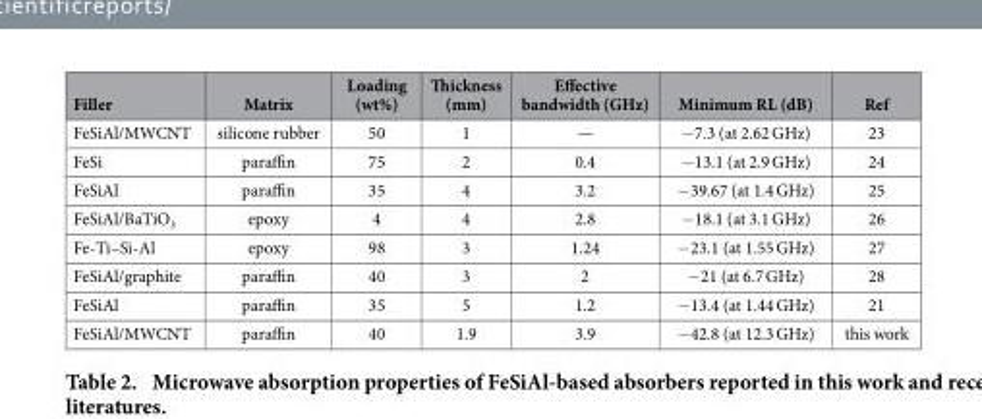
<table><thead><tr><td>Filler</td><td>Matrix</td><td>Loading (wt%)</td><td>Thickness (mm)</td><td>Effective bandwidth (GHz)</td><td>Minimum RL (dB)</td><td>Ref</td></tr></thead><tbody><tr><td>FeSiAl/MWCNT</td><td>silicone rubber</td><td>50</td><td>1</td><td>—</td><td>− 7.3 (at 2.62 GHz)</td><td>23</td></tr><tr><td>FeSi</td><td>paraffin</td><td>75</td><td>2</td><td>0.4</td><td>− 13.1 (at 2.9 GHz)</td><td>24</td></tr><tr><td>FeSiAl</td><td>paraffin</td><td>35</td><td>4</td><td>3.2</td><td>− 39.67 (at 1.4 GHz)</td><td>25</td></tr><tr><td>FeSiAl/BaTiO<sub>3</sub></td><td>epoxy</td><td>4</td><td>4</td><td>2.8</td><td>− 18.1 (at 3.1 GHz)</td><td>26</td></tr><tr><td>Fe-Ti–Si-Al</td><td>epoxy</td><td>98</td><td>3</td><td>1.24</td><td>− 23.1 (at 1.55 GHz)</td><td>27</td></tr><tr><td>FeSiAl/graphite</td><td>paraffin</td><td>40</td><td>3</td><td>2</td><td>− 21 (at 6.7 GHz)</td><td>28</td></tr><tr><td>FeSiAl</td><td>paraffin</td><td>35</td><td>5</td><td>1.2</td><td>− 13.4 (at 1.44 GHz)</td><td>21</td></tr><tr><td>FeSiAl/MWCNT</td><td>paraffin</td><td>40</td><td>1.9</td><td>3.9</td><td>− 42.8 (at 12.3 GHz)</td><td>this work</td></tr></tbody></table>